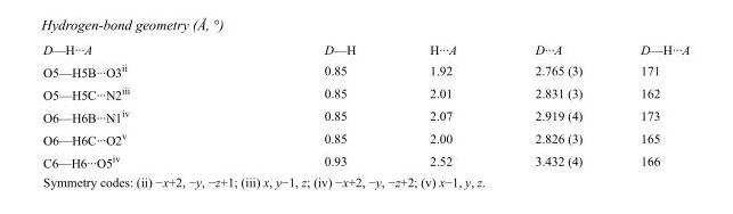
<table><tbody><tr><td>D—H···A</td><td>D—H</td><td>H···A</td><td>D···A</td><td>D—H···A</td></tr><tr><td>O5—H5B···O3<sup>ii</sup></td><td>0.85</td><td>1.92</td><td>2.765 (3)</td><td>171</td></tr><tr><td>O5—H5C···N2<sup>iii</sup></td><td>0.85</td><td>2.01</td><td>2.831 (3)</td><td>162</td></tr><tr><td>O6—H6B···N1<sup>iv</sup></td><td>0.85</td><td>2.07</td><td>2.919 (4)</td><td>173</td></tr><tr><td>O6—H6C···O2<sup>v</sup></td><td>0.85</td><td>2.00</td><td>2.826 (3)</td><td>165</td></tr><tr><td>C6—H6···O5<sup>iv</sup></td><td>0.93</td><td>2.52</td><td>3.432 (4)</td><td>166</td></tr></tbody></table>